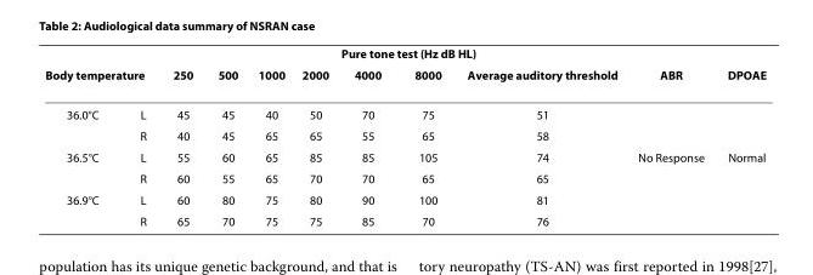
<table><thead><tr><td colspan="11">Pure tone test (Hz dB HL)</td></tr><tr><td colspan="2">Body temperature</td><td rowspan="2">250 45</td><td rowspan="2">500 45</td><td rowspan="2">1000 40</td><td rowspan="2">2000 50</td><td rowspan="2">4000 70</td><td rowspan="2">8000 75</td><td rowspan="2">Average auditory threshold 51</td><td rowspan="2">ABR</td><td rowspan="2">DPOAE</td></tr><tr><td>36.0°C</td><td>L</td></tr></thead><tbody><tr><td></td><td>R</td><td>40</td><td>45</td><td>65</td><td>65</td><td>55</td><td>65</td><td>58</td><td></td><td></td></tr><tr><td rowspan="2">36.5°C</td><td>L</td><td>55</td><td>60</td><td>65</td><td>85</td><td>85</td><td>105</td><td>74</td><td>No Response</td><td>Normal</td></tr><tr><td>R</td><td>60</td><td>55</td><td>65</td><td>70</td><td>70</td><td>65</td><td>65</td><td></td><td></td></tr><tr><td rowspan="2">36.9°C</td><td>L</td><td>60</td><td>80</td><td>75</td><td>80</td><td>90</td><td>100</td><td>81</td><td></td><td></td></tr><tr><td>R</td><td>65</td><td>70</td><td>75</td><td>75</td><td>85</td><td>70</td><td>76</td><td></td><td></td></tr></tbody></table>